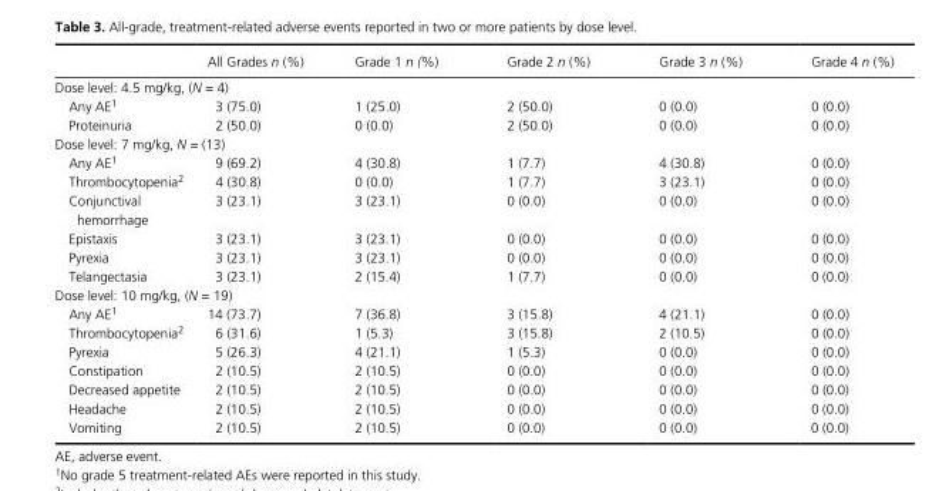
<table><thead><tr><td></td><td>All Grades n (%)</td><td>Grade 1 n (%)</td><td>Grade 2 n (%)</td><td>Grade 3 n (%)</td><td>Grade 4 n (%)</td></tr></thead><tbody><tr><td colspan="6">Dose level: 4.5 mg/kg, (N = 4)</td></tr><tr><td>Any AE1</td><td>3 (75.0)</td><td>1 (25.0)</td><td>2 (50.0)</td><td>0 (0.0)</td><td>0 (0.0)</td></tr><tr><td>Proteinuria</td><td>2 (50.0)</td><td>0 (0.0)</td><td>2 (50.0)</td><td>0 (0.0)</td><td>0 (0.0)</td></tr><tr><td colspan="6">Dose level: 7 mg/kg, N = (13)</td></tr><tr><td>Any AE1</td><td>9 (69.2)</td><td>4 (30.8)</td><td>1 (7.7)</td><td>4 (30.8)</td><td>0 (0.0)</td></tr><tr><td>Thrombocytopenia2</td><td>4 (30.8)</td><td>0 (0.0)</td><td>1 (7.7)</td><td>3 (23.1)</td><td>0 (0.0)</td></tr><tr><td>Conjunctival hemorrhage</td><td>3 (23.1)</td><td>3 (23.1)</td><td>0 (0.0)</td><td>0 (0.0)</td><td>0 (0.0)</td></tr><tr><td>Epistaxis</td><td>3 (23.1)</td><td>3 (23.1)</td><td>0 (0.0)</td><td>0 (0.0)</td><td>0 (0.0)</td></tr><tr><td>Pyrexia</td><td>3 (23.1)</td><td>3 (23.1)</td><td>0 (0.0)</td><td>0 (0.0)</td><td>0 (0.0)</td></tr><tr><td>Telangectasia</td><td>3 (23.1)</td><td>2 (15.4)</td><td>1 (7.7)</td><td>0 (0.0)</td><td>0 (0.0)</td></tr><tr><td colspan="6">Dose level: 10 mg/kg, (N = 19)</td></tr><tr><td>Any AE1</td><td>14 (73.7)</td><td>7 (36.8)</td><td>3 (15.8)</td><td>4 (21.1)</td><td>0 (0.0)</td></tr><tr><td>Thrombocytopenia2</td><td>6 (31.6)</td><td>1 (5.3)</td><td>3 (15.8)</td><td>2 (10.5)</td><td>0 (0.0)</td></tr><tr><td>Pyrexia</td><td>5 (26.3)</td><td>4 (21.1)</td><td>1 (5.3)</td><td>0 (0.0)</td><td>0 (0.0)</td></tr><tr><td>Constipation</td><td>2 (10.5)</td><td>2 (10.5)</td><td>0 (0.0)</td><td>0 (0.0)</td><td>0 (0.0)</td></tr><tr><td>Decreased appetite</td><td>2 (10.5)</td><td>2 (10.5)</td><td>0 (0.0)</td><td>0 (0.0)</td><td>0 (0.0)</td></tr><tr><td>Headache</td><td>2 (10.5)</td><td>2 (10.5)</td><td>0 (0.0)</td><td>0 (0.0)</td><td>0 (0.0)</td></tr><tr><td>Vomiting</td><td>2 (10.5)</td><td>2 (10.5)</td><td>0 (0.0)</td><td>0 (0.0)</td><td>0 (0.0)</td></tr></tbody></table>